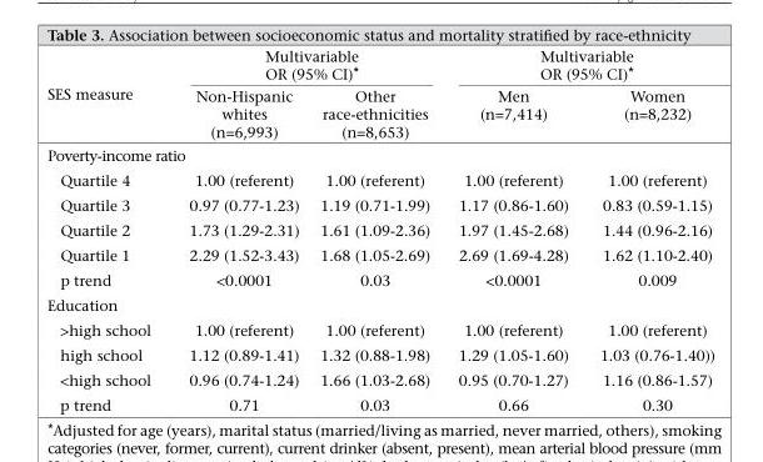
<table><thead><tr><td rowspan="2">SES measure</td><td colspan="2">Multivariable OR (95% CI)*</td><td colspan="2">Multivariable OR (95% CI)*</td></tr><tr><td>Non-Hispanic whites (n=6,993)</td><td>Other race-ethnicities (n=8,653)</td><td>Men (n=7,414)</td><td>Women (n=8,232)</td></tr></thead><tbody><tr><td colspan="5">Poverty-income ratio</td></tr><tr><td>Quartile 4</td><td>1.00 (referent)</td><td>1.00 (referent)</td><td>1.00 (referent)</td><td>1.00 (referent)</td></tr><tr><td>Quartile 3</td><td>0.97 (0.77-1.23)</td><td>1.19 (0.71-1.99)</td><td>1.17 (0.86-1.60)</td><td>0.83 (0.59-1.15)</td></tr><tr><td>Quartile 2</td><td>1.73 (1.29-2.31)</td><td>1.61 (1.09-2.36)</td><td>1.97 (1.45-2.68)</td><td>1.44 (0.96-2.16)</td></tr><tr><td>Quartile 1</td><td>2.29 (1.52-3.43)</td><td>1.68 (1.05-2.69)</td><td>2.69 (1.69-4.28)</td><td>1.62 (1.10-2.40)</td></tr><tr><td>p trend</td><td>&lt;0.0001</td><td>0.03</td><td>&lt;0.0001</td><td>0.009</td></tr><tr><td colspan="5">Education</td></tr><tr><td>&gt;high school</td><td>1.00 (referent)</td><td>1.00 (referent)</td><td>1.00 (referent)</td><td>1.00 (referent)</td></tr><tr><td>high school</td><td>1.12 (0.89-1.41)</td><td>1.32 (0.88-1.98)</td><td>1.29 (1.05-1.60)</td><td>1.03 (0.76-1.40))</td></tr><tr><td>&lt;high school</td><td>0.96 (0.74-1.24)</td><td>1.66 (1.03-2.68)</td><td>0.95 (0.70-1.27)</td><td>1.16 (0.86-1.57)</td></tr><tr><td>p trend</td><td>0.71</td><td>0.03</td><td>0.66</td><td>0.30</td></tr></tbody></table>